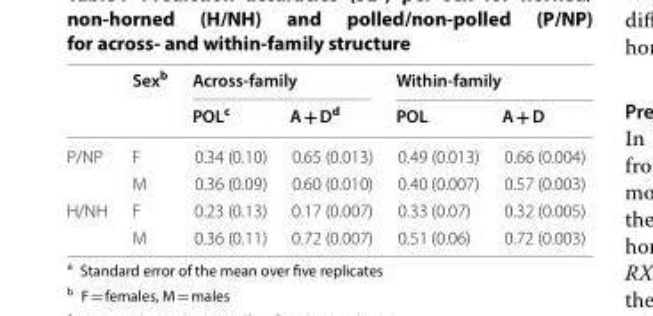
<table><thead><tr><td rowspan="2"></td><td rowspan="2">Sex<sup>b</sup></td><td colspan="2">Across-family</td><td colspan="2">Within-family</td></tr><tr><td>POL<sup>c</sup></td><td>A + D<sup>d</sup></td><td>POL</td><td>A + D</td></tr></thead><tbody><tr><td rowspan="2">P/NP</td><td>F</td><td>0.34 (0.10)</td><td>0.65 (0.013)</td><td>0.49 (0.013)</td><td>0.66 (0.004)</td></tr><tr><td>M</td><td>0.36 (0.09)</td><td>0.60 (0.010)</td><td>0.40 (0.007)</td><td>0.57 (0.003)</td></tr><tr><td rowspan="2">H/NH</td><td>F</td><td>0.23 (0.13)</td><td>0.17 (0.007)</td><td>0.33 (0.07)</td><td>0.32 (0.005)</td></tr><tr><td>M</td><td>0.36 (0.11)</td><td>0.72 (0.007)</td><td>0.51 (0.06)</td><td>0.72 (0.003)</td></tr></tbody></table>